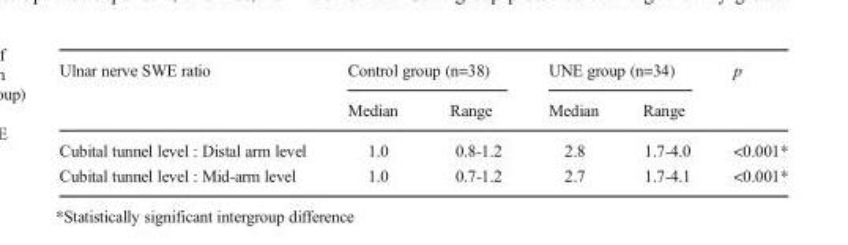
<table><thead><tr><td rowspan="2">Ulnar nerve SWE ratio</td><td colspan="2">Control group (n=38)</td><td colspan="2">UNE group (n=34)</td><td rowspan="2">p</td></tr><tr><td>Median</td><td>Range</td><td>Median</td><td>Range</td></tr></thead><tbody><tr><td>Cubital tunnel level : Distal arm level</td><td>1.0</td><td>0.8-1.2</td><td>2.8</td><td>1.7-4.0</td><td>&lt;0.001*</td></tr><tr><td>Cubital tunnel level : Mid-arm level</td><td>1.0</td><td>0.7-1.2</td><td>2.7</td><td>1.7-4.1</td><td>&lt;0.001*</td></tr></tbody></table>